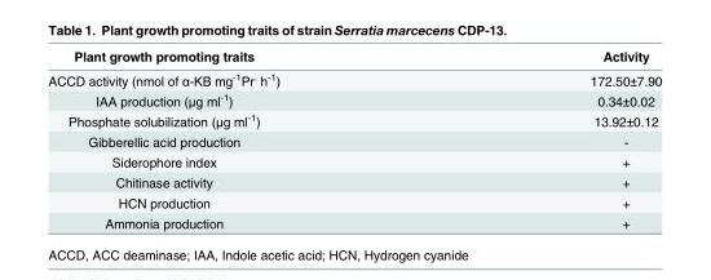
<table><thead><tr><td>Plant growth promoting traits</td><td>Activity</td></tr></thead><tbody><tr><td>ACCD activity (nmol of α-KB mg<sup>-1</sup>Pr<sup>.</sup> h<sup>-1</sup>)</td><td>172.50±7.90</td></tr><tr><td>IAA production (μg ml<sup>-1</sup>)</td><td>0.34±0.02</td></tr><tr><td>Phosphate solubilization (μg ml<sup>-1</sup>)</td><td>13.92±0.12</td></tr><tr><td>Gibberellic acid production</td><td>-</td></tr><tr><td>Siderophore index</td><td>+</td></tr><tr><td>Chitinase activity</td><td>+</td></tr><tr><td>HCN production</td><td>+</td></tr><tr><td>Ammonia production</td><td>+</td></tr></tbody></table>